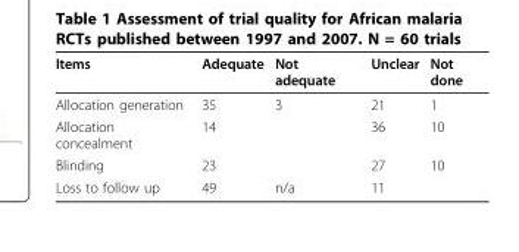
<table><thead><tr><td>Items</td><td>Adequate</td><td>Not adequate</td><td>Unclear</td><td>Not done</td></tr></thead><tbody><tr><td>Allocation generation</td><td>35</td><td>3</td><td>21</td><td>1</td></tr><tr><td>Allocation concealment</td><td>14</td><td></td><td>36</td><td>10</td></tr><tr><td>Blinding</td><td>23</td><td></td><td>27</td><td>10</td></tr><tr><td>Loss to follow up</td><td>49</td><td>n/a</td><td>11</td><td></td></tr></tbody></table>